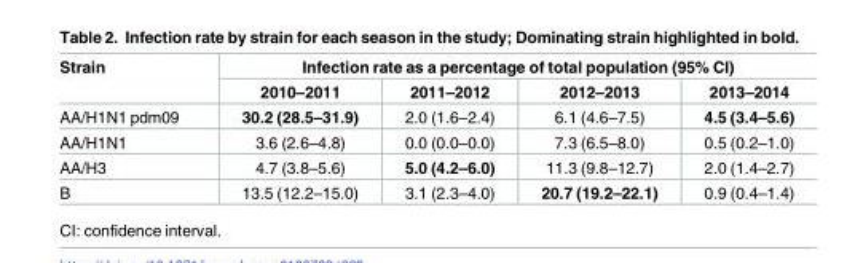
<table><thead><tr><td rowspan="2">Strain</td><td colspan="4">Infection rate as a percentage of total population (95% CI)</td></tr><tr><td>2010–2011</td><td>2011–2012</td><td>2012–2013</td><td>2013–2014</td></tr></thead><tbody><tr><td>AA/H1N1 pdm09</td><td>30.2 (28.5–31.9)</td><td>2.0 (1.6–2.4)</td><td>6.1 (4.6–7.5)</td><td>4.5 (3.4–5.6)</td></tr><tr><td>AA/H1N1</td><td>3.6 (2.6–4.8)</td><td>0.0 (0.0–0.0)</td><td>7.3 (6.5–8.0)</td><td>0.5 (0.2–1.0)</td></tr><tr><td>AA/H3</td><td>4.7 (3.8–5.6)</td><td>5.0 (4.2–6.0)</td><td>11.3 (9.8–12.7)</td><td>2.0 (1.4–2.7)</td></tr><tr><td>B</td><td>13.5 (12.2–15.0)</td><td>3.1 (2.3–4.0)</td><td>20.7 (19.2–22.1)</td><td>0.9 (0.4–1.4)</td></tr></tbody></table>